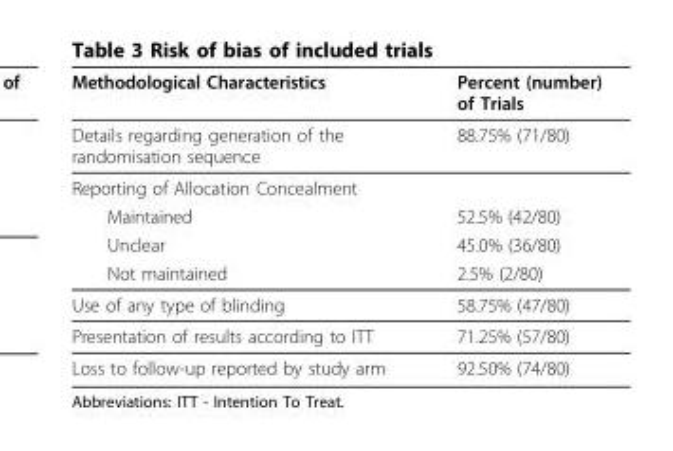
<table><thead><tr><td>Methodological Characteristics</td><td>Percent (number) of Trials</td></tr></thead><tbody><tr><td>Details regarding generation of the randomisation sequence</td><td>88.75% (71/80)</td></tr><tr><td colspan="2">Reporting of Allocation Concealment</td></tr><tr><td>Maintained</td><td>52.5% (42/80)</td></tr><tr><td>Unclear</td><td>45.0% (36/80)</td></tr><tr><td>Not maintained</td><td>2.5% (2/80)</td></tr><tr><td>Use of any type of blinding</td><td>58.75% (47/80)</td></tr><tr><td>Presentation of results according to ITT</td><td>71.25% (57/80)</td></tr><tr><td>Loss to follow-up reported by study arm</td><td>92.50% (74/80)</td></tr></tbody></table>